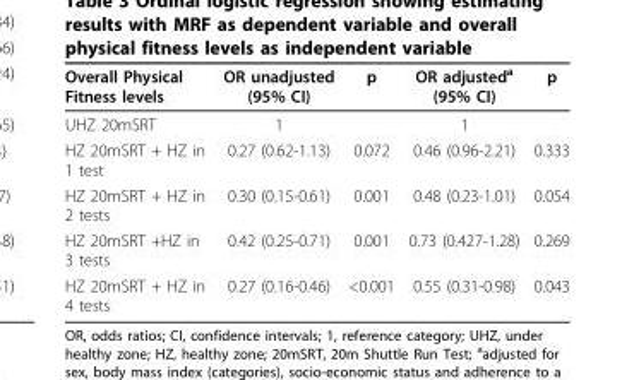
<table><thead><tr><td>Overall Physical Fitness levels</td><td>OR unadjusted (95% CI)</td><td>p</td><td>OR adjusted<sup>a</sup> (95% CI)</td><td>p</td></tr></thead><tbody><tr><td>UHZ 20mSRT</td><td>1</td><td></td><td>1</td><td></td></tr><tr><td>HZ 20mSRT + HZ in 1 test</td><td>0.27 (0.62-1.13)</td><td>0.072</td><td>0.46 (0.96-2.21)</td><td>0.333</td></tr><tr><td>HZ 20mSRT + HZ in 2 tests</td><td>0.30 (0.15-0.61)</td><td>0.001</td><td>0.48 (0.23-1.01)</td><td>0.054</td></tr><tr><td>HZ 20mSRT +HZ in 3 tests</td><td>0.42 (0.25-0.71)</td><td>0.001</td><td>0.73 (0.427-1.28)</td><td>0.269</td></tr><tr><td>HZ 20mSRT + HZ in 4 tests</td><td>0.27 (0.16-0.46)</td><td>&lt;0.001</td><td>0.55 (0.31-0.98)</td><td>0.043</td></tr></tbody></table>